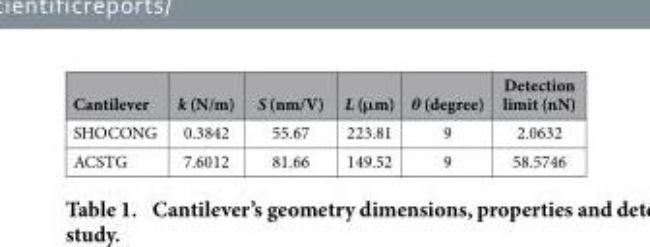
<table><thead><tr><td>Cantilever</td><td>k (N/m)</td><td>S (nm/V)</td><td>L (μm)</td><td>θ (degree)</td><td>Detection limit (nN)</td></tr></thead><tbody><tr><td>SHOCONG</td><td>0.3842</td><td>55.67</td><td>223.81</td><td>9</td><td>2.0632</td></tr><tr><td>ACSTG</td><td>7.6012</td><td>81.66</td><td>149.52</td><td>9</td><td>58.5746</td></tr></tbody></table>